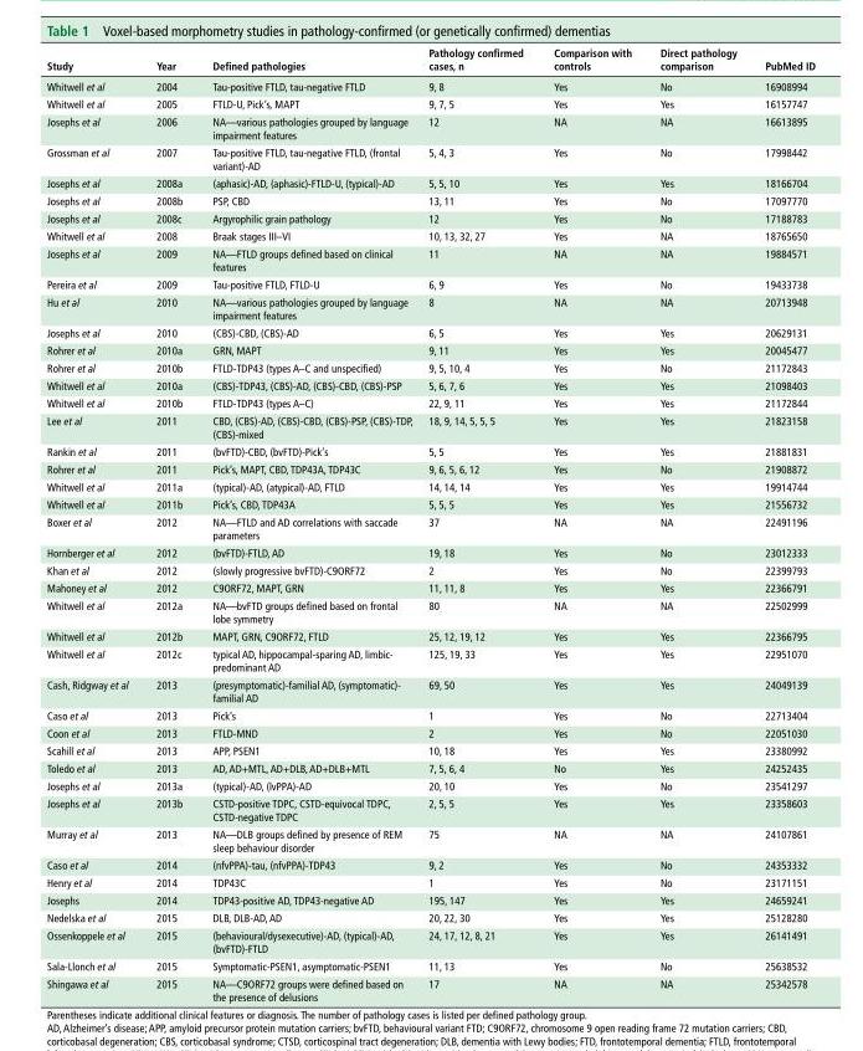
<table><thead><tr><td>study</td><td>Year</td><td>defined pathologies</td><td>Pathology confirmed cases, n</td><td>Comparison with controls</td><td>direct pathology comparison</td><td>PubMed Id</td></tr></thead><tbody><tr><td>Whitwell et al</td><td>2004</td><td>Tau-positive FTLD, tau-negative FTLD</td><td>9, 8</td><td>Yes</td><td>No</td><td>16908994</td></tr><tr><td>Whitwell et al</td><td>2005</td><td>FTLD-U, Pick’s, MAPT</td><td>9, 7, 5</td><td>Yes</td><td>Yes</td><td>16157747</td></tr><tr><td>Josephs et al</td><td>2006</td><td>NA—various pathologies grouped by language impairment features</td><td>12</td><td>NA</td><td>NA</td><td>16613895</td></tr><tr><td>Grossman et al</td><td>2007</td><td>Tau-positive FTLD, tau-negative FTLD, (frontal variant)-AD</td><td>5, 4, 3</td><td>Yes</td><td>No</td><td>17998442</td></tr><tr><td>Josephs et al</td><td>2008a</td><td>(aphasic)-AD, (aphasic)-FTLD-U, (typical)-AD</td><td>5, 5, 10</td><td>Yes</td><td>Yes</td><td>18166704</td></tr><tr><td>Josephs et al</td><td>2008b</td><td>PSP, CBD</td><td>13, 11</td><td>Yes</td><td>No</td><td>17097770</td></tr><tr><td>Josephs et al</td><td>2008c</td><td>Argyrophilic grain pathology</td><td>12</td><td>Yes</td><td>No</td><td>17188783</td></tr><tr><td>Whitwell et al</td><td>2008</td><td>Braak stages III–VI</td><td>10, 13, 32, 27</td><td>Yes</td><td>NA</td><td>18765650</td></tr><tr><td>Josephs et al</td><td>2009</td><td>NA—FTLD groups defined based on clinical features</td><td>11</td><td>NA</td><td>NA</td><td>19884571</td></tr><tr><td>Pereira et al</td><td>2009</td><td>Tau-positive FTLD, FTLD-U</td><td>6, 9</td><td>Yes</td><td>No</td><td>19433738</td></tr><tr><td>Hu et al</td><td>2010</td><td>NA—various pathologies grouped by language impairment features</td><td>8</td><td>NA</td><td>NA</td><td>20713948</td></tr><tr><td>Josephs et al</td><td>2010</td><td>(CBS)-CBD, (CBS)-AD</td><td>6, 5</td><td>Yes</td><td>Yes</td><td>20629131</td></tr><tr><td>Rohrer et al</td><td>2010a</td><td>GRN, MAPT</td><td>9, 11</td><td>Yes</td><td>Yes</td><td>20045477</td></tr><tr><td>Rohrer et al</td><td>2010b</td><td>FTLD-TDP43 (types A–C and unspecified)</td><td>9, 5, 10, 4</td><td>Yes</td><td>No</td><td>21172843</td></tr><tr><td>Whitwell et al</td><td>2010a</td><td>(CBS)-TDP43, (CBS)-AD, (CBS)-CBD, (CBS)-PSP</td><td>5, 6, 7, 6</td><td>Yes</td><td>Yes</td><td>21098403</td></tr><tr><td>Whitwell et al</td><td>2010b</td><td>FTLD-TDP43 (types A–C)</td><td>22, 9, 11</td><td>Yes</td><td>Yes</td><td>21172844</td></tr><tr><td>Lee et al</td><td>2011</td><td>CBD, (CBS)-AD, (CBS)-CBD, (CBS)-PSP, (CBS)-TDP, (CBS)-mixed</td><td>18, 9, 14, 5, 5, 5</td><td>Yes</td><td>Yes</td><td>21823158</td></tr><tr><td>Rankin et al</td><td>2011</td><td>(bvFTD)-CBD, (bvFTD)-Pick’s</td><td>5, 5</td><td>Yes</td><td>Yes</td><td>21881831</td></tr><tr><td>Rohrer et al</td><td>2011</td><td>Pick’s, MAPT, CBD, TDP43A, TDP43C</td><td>9, 6, 5, 6, 12</td><td>Yes</td><td>No</td><td>21908872</td></tr><tr><td>Whitwell et al</td><td>2011a</td><td>(typical)-AD, (atypical)-AD, FTLD</td><td>14, 14, 14</td><td>Yes</td><td>Yes</td><td>19914744</td></tr><tr><td>Whitwell et al</td><td>2011b</td><td>Pick’s, CBD, TDP43A</td><td>5, 5, 5</td><td>Yes</td><td>Yes</td><td>21556732</td></tr><tr><td>Boxer et al</td><td>2012</td><td>NA—FTLD and AD correlations with saccade parameters</td><td>37</td><td>NA</td><td>NA</td><td>22491196</td></tr><tr><td>Hornberger et al</td><td>2012</td><td>(bvFTD)-FTLD, AD</td><td>19, 18</td><td>Yes</td><td>No</td><td>23012333</td></tr><tr><td>Khan et al</td><td>2012</td><td>(slowly progressive bvFTD)-C9ORF72</td><td>2</td><td>Yes</td><td>No</td><td>22399793</td></tr><tr><td>Mahoney et al</td><td>2012</td><td>C9ORF72, MAPT, GRN</td><td>11, 11, 8</td><td>Yes</td><td>Yes</td><td>22366791</td></tr><tr><td>Whitwell et al</td><td>2012a</td><td>NA—bvFTD groups defined based on frontal lobe symmetry</td><td>80</td><td>NA</td><td>NA</td><td>22502999</td></tr><tr><td>Whitwell et al</td><td>2012b</td><td>MAPT, GRN, C9ORF72, FTLD</td><td>25, 12, 19, 12</td><td>Yes</td><td>Yes</td><td>22366795</td></tr><tr><td>Whitwell et al</td><td>2012c</td><td>typical AD, hippocampal-sparing AD, limbic- predominant AD</td><td>125, 19, 33</td><td>Yes</td><td>Yes</td><td>22951070</td></tr><tr><td>Cash, Ridgway et al</td><td>2013</td><td>(presymptomatic)-familial AD, (symptomatic)- familial AD</td><td>69, 50</td><td>Yes</td><td>Yes</td><td>24049139</td></tr><tr><td>Caso et al</td><td>2013</td><td>Pick’s</td><td>1</td><td>Yes</td><td>No</td><td>22713404</td></tr><tr><td>Coon et al</td><td>2013</td><td>FTLD-MND</td><td>2</td><td>Yes</td><td>No</td><td>22051030</td></tr><tr><td>Scahill et al</td><td>2013</td><td>APP, PSEN1</td><td>10, 18</td><td>Yes</td><td>Yes</td><td>23380992</td></tr><tr><td>Toledo et al</td><td>2013</td><td>AD, AD+MTL, AD+DLB, AD+DLB+MTL</td><td>7, 5, 6, 4</td><td>No</td><td>Yes</td><td>24252435</td></tr><tr><td>Josephs et al</td><td>2013a</td><td>(typical)-AD, (lvPPA)-AD</td><td>20, 10</td><td>Yes</td><td>No</td><td>23541297</td></tr><tr><td>Josephs et al</td><td>2013b</td><td>CSTD-positive TDPC, CSTD-equivocal TDPC, CSTD-negative TDPC</td><td>2, 5, 5</td><td>Yes</td><td>Yes</td><td>23358603</td></tr><tr><td>Murray et al</td><td>2013</td><td>NA—DLB groups defined by presence of REM sleep behaviour disorder</td><td>75</td><td>NA</td><td>NA</td><td>24107861</td></tr><tr><td>Caso et al</td><td>2014</td><td>(nfvPPA)-tau, (nfvPPA)-TDP43</td><td>9, 2</td><td>Yes</td><td>No</td><td>24353332</td></tr><tr><td>Henry et al</td><td>2014</td><td>TDP43C</td><td>1</td><td>Yes</td><td>No</td><td>23171151</td></tr><tr><td>Josephs</td><td>2014</td><td>TDP43-positive AD, TDP43-negative AD</td><td>195, 147</td><td>Yes</td><td>Yes</td><td>24659241</td></tr><tr><td>Nedelska et al</td><td>2015</td><td>DLB, DLB-AD, AD</td><td>20, 22, 30</td><td>Yes</td><td>Yes</td><td>25128280</td></tr><tr><td>Ossenkoppele et al</td><td>2015</td><td>(behavioural/dysexecutive)-AD, (typical)-AD, (bvFTD)-FTLD</td><td>24, 17, 12, 8, 21</td><td>Yes</td><td>Yes</td><td>26141491</td></tr><tr><td>Sala-Llonch et al</td><td>2015</td><td>Symptomatic-PSEN1, asymptomatic-PSEN1</td><td>11, 13</td><td>Yes</td><td>No</td><td>25638532</td></tr><tr><td>Shingawa et al</td><td>2015</td><td>NA—C9ORF72 groups were defined based on the presence of delusions</td><td>17</td><td>NA</td><td>NA</td><td>25342578</td></tr></tbody></table>